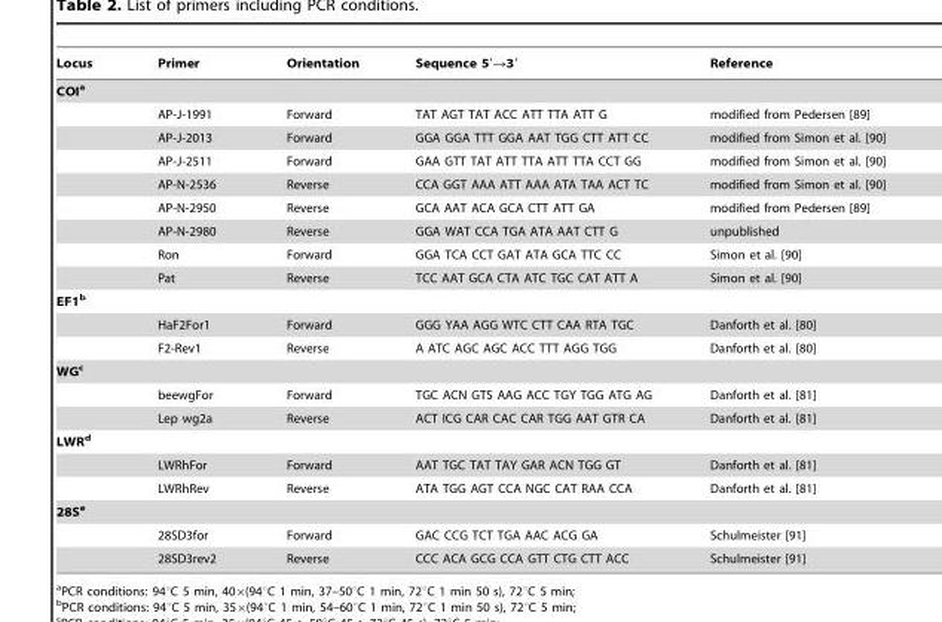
<table><thead><tr><td>Locus</td><td>Primer</td><td>Orientation</td><td>Sequence 5′→3′</td><td>Reference</td></tr></thead><tbody><tr><td colspan="5">COIa</td></tr><tr><td></td><td>AP-J-1991</td><td>Forward</td><td>TAT AGT TAT ACC ATT TTA ATT G</td><td>modified from Pedersen [89]</td></tr><tr><td></td><td>AP-J-2013</td><td>Forward</td><td>GGA GGA TTT GGA AAT TGG CTT ATT CC</td><td>modified from Simon et al. [90]</td></tr><tr><td></td><td>AP-J-2511</td><td>Forward</td><td>GAA GTT TAT ATT TTA ATT TTA CCT GG</td><td>modified from Simon et al. [90]</td></tr><tr><td></td><td>AP-N-2536</td><td>Reverse</td><td>CCA GGT AAA ATT AAA ATA TAA ACT TC</td><td>modified from Simon et al. [90]</td></tr><tr><td></td><td>AP-N-2950</td><td>Reverse</td><td>GCA AAT ACA GCA CTT ATT GA</td><td>modified from Pedersen [89]</td></tr><tr><td></td><td>AP-N-2980</td><td>Reverse</td><td>GGA WAT CCA TGA ATA AAT CTT G</td><td>unpublished</td></tr><tr><td></td><td>Ron</td><td>Forward</td><td>GGA TCA CCT GAT ATA GCA TTC CC</td><td>Simon et al. [90]</td></tr><tr><td></td><td>Pat</td><td>Reverse</td><td>TCC AAT GCA CTA ATC TGC CAT ATT A</td><td>Simon et al. [90]</td></tr><tr><td colspan="5">EF1b</td></tr><tr><td></td><td>HaF2For1</td><td>Forward</td><td>GGG YAA AGG WTC CTT CAA RTA TGC</td><td>Danforth et al. [80]</td></tr><tr><td></td><td>F2-Rev1</td><td>Reverse</td><td>A ATC AGC AGC ACC TTT AGG TGG</td><td>Danforth et al. [80]</td></tr><tr><td colspan="5">WGc</td></tr><tr><td></td><td>beewgFor</td><td>Forward</td><td>TGC ACN GTS AAG ACC TGY TGG ATG AG</td><td>Danforth et al. [81]</td></tr><tr><td></td><td>Lep wg2a</td><td>Reverse</td><td>ACT ICG CAR CAC CAR TGG AAT GTR CA</td><td>Danforth et al. [81]</td></tr><tr><td colspan="5">LWRd</td></tr><tr><td></td><td>LWRhFor</td><td>Forward</td><td>AAT TGC TAT TAY GAR ACN TGG GT</td><td>Danforth et al. [81]</td></tr><tr><td></td><td>LWRhRev</td><td>Reverse</td><td>ATA TGG AGT CCA NGC CAT RAA CCA</td><td>Danforth et al. [81]</td></tr><tr><td colspan="5">28Se</td></tr><tr><td></td><td>28SD3for</td><td>Forward</td><td>GAC CCG TCT TGA AAC ACG GA</td><td>Schulmeister [91]</td></tr><tr><td></td><td>28SD3rev2</td><td>Reverse</td><td>CCC ACA GCG CCA GTT CTG CTT ACC</td><td>Schulmeister [91]</td></tr></tbody></table>